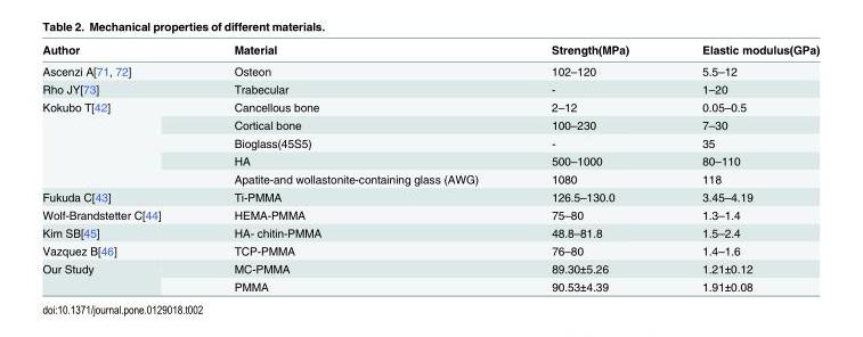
<table><thead><tr><td>Author</td><td>Material</td><td>Strength(MPa)</td><td>Elastic modulus(GPa)</td></tr></thead><tbody><tr><td>Ascenzi A[71, 72]</td><td>Osteon</td><td>102–120</td><td>5.5–12</td></tr><tr><td>Rho JY[73]</td><td>Trabecular</td><td>-</td><td>1–20</td></tr><tr><td rowspan="5">Kokubo T[42]</td><td>Cancellous bone</td><td>2–12</td><td>0.05–0.5</td></tr><tr><td>Cortical bone</td><td>100–230</td><td>7–30</td></tr><tr><td>Bioglass(45S5)</td><td>-</td><td>35</td></tr><tr><td>HA</td><td>500–1000</td><td>80–110</td></tr><tr><td>Apatite-and wollastonite-containing glass (AWG)</td><td>1080</td><td>118</td></tr><tr><td>Fukuda C[43]</td><td>Ti-PMMA</td><td>126.5–130.0</td><td>3.45–4.19</td></tr><tr><td>Wolf-Brandstetter C[44]</td><td>HEMA-PMMA</td><td>75–80</td><td>1.3–1.4</td></tr><tr><td>Kim SB[45]</td><td>HA- chitin-PMMA</td><td>48.8–81.8</td><td>1.5–2.4</td></tr><tr><td>Vazquez B[46]</td><td>TCP-PMMA</td><td>76–80</td><td>1.4–1.6</td></tr><tr><td rowspan="2">Our Study</td><td>MC-PMMA</td><td>89.30±5.26</td><td>1.21±0.12</td></tr><tr><td>PMMA</td><td>90.53±4.39</td><td>1.91±0.08</td></tr></tbody></table>